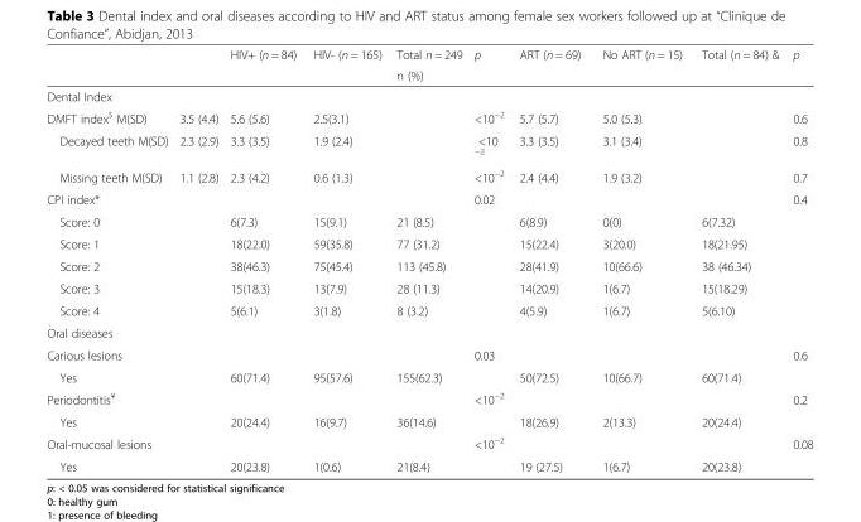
<table><thead><tr><td rowspan="2"></td><td rowspan="2"></td><td rowspan="2">HIV+ (n = 84)</td><td rowspan="2">HIV- (n = 165)</td><td rowspan="2">Total n = 249 n (%)</td><td rowspan="2">p</td><td rowspan="2">ART (n = 69)</td><td rowspan="2">No ART (n = 15)</td><td rowspan="2">Total (n = 84) &amp;</td><td rowspan="2">p</td></tr><tr></tr></thead><tbody><tr><td colspan="10">Dental Index</td></tr><tr><td>DMFT index<sup>$</sup> M(SD)</td><td>3.5 (4.4)</td><td>5.6 (5.6)</td><td>2.5(3.1)</td><td></td><td>&lt;10<sup>−2</sup></td><td>5.7 (5.7)</td><td>5.0 (5.3)</td><td></td><td>0.6</td></tr><tr><td>Decayed teeth M(SD)</td><td>2.3 (2.9)</td><td>3.3 (3.5)</td><td>1.9 (2.4)</td><td></td><td>&lt;10 <sup>−2</sup></td><td>3.3 (3.5)</td><td>3.1 (3.4)</td><td></td><td>0.8</td></tr><tr><td>Missing teeth M(SD)</td><td>1.1 (2.8)</td><td>2.3 (4.2)</td><td>0.6 (1.3)</td><td></td><td>&lt;10<sup>−2</sup></td><td>2.4 (4.4)</td><td>1.9 (3.2)</td><td></td><td>0.7</td></tr><tr><td>CPI index*</td><td></td><td></td><td></td><td></td><td>0.02</td><td></td><td></td><td></td><td>0.4</td></tr><tr><td>Score: 0</td><td></td><td>6(7.3)</td><td>15(9.1)</td><td>21 (8.5)</td><td></td><td>6(8.9)</td><td>0(0)</td><td>6(7.32)</td><td></td></tr><tr><td>Score: 1</td><td></td><td>18(22.0)</td><td>59(35.8)</td><td>77 (31.2)</td><td></td><td>15(22.4)</td><td>3(20.0)</td><td>18(21.95)</td><td></td></tr><tr><td>Score: 2</td><td></td><td>38(46.3)</td><td>75(45.4)</td><td>113 (45.8)</td><td></td><td>28(41.9)</td><td>10(66.6)</td><td>38 (46.34)</td><td></td></tr><tr><td>Score: 3</td><td></td><td>15(18.3)</td><td>13(7.9)</td><td>28 (11.3)</td><td></td><td>14(20.9)</td><td>1(6.7)</td><td>15(18.29)</td><td></td></tr><tr><td>Score: 4</td><td></td><td>5(6.1)</td><td>3(1.8)</td><td>8 (3.2)</td><td></td><td>4(5.9)</td><td>1(6.7)</td><td>5(6.10)</td><td></td></tr><tr><td colspan="10">Oral diseases</td></tr><tr><td>Carious lesions</td><td></td><td></td><td></td><td></td><td>0.03</td><td></td><td></td><td></td><td>0.6</td></tr><tr><td>Yes</td><td></td><td>60(71.4)</td><td>95(57.6)</td><td>155(62.3)</td><td></td><td>50(72.5)</td><td>10(66.7)</td><td>60(71.4)</td><td></td></tr><tr><td>Periodontitis<sup>¥</sup></td><td></td><td></td><td></td><td></td><td>&lt;10<sup>−2</sup></td><td></td><td></td><td></td><td>0.2</td></tr><tr><td>Yes</td><td></td><td>20(24.4)</td><td>16(9.7)</td><td>36(14.6)</td><td></td><td>18(26.9)</td><td>2(13.3)</td><td>20(24.4)</td><td></td></tr><tr><td>Oral-mucosal lesions</td><td></td><td></td><td></td><td></td><td>&lt;10<sup>−2</sup></td><td></td><td></td><td></td><td>0.08</td></tr><tr><td>Yes</td><td></td><td>20(23.8)</td><td>1(0.6)</td><td>21(8.4)</td><td></td><td>19 (27.5)</td><td>1(6.7)</td><td>20(23.8)</td><td></td></tr></tbody></table>